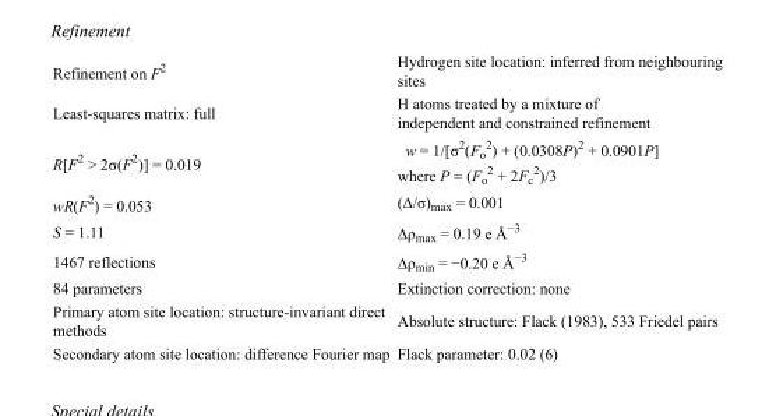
<table><tbody><tr><td>Refinement on F<sup>2</sup></td><td>Hydrogen site location: inferred from neighbouring sites</td></tr><tr><td>Least-squares matrix: full</td><td>H atoms treated by a mixture of independent and constrained refinement</td></tr><tr><td>R[F<sup>2</sup> &gt; 2σ(F<sup>2</sup>)] = 0.019</td><td>w = 1/[σ<sup>2</sup>(F<sub>o</sub> <sup>2</sup>) + (0.0308P)<sup>2</sup> + 0.0901P] where P = (F<sub>o</sub> <sup>2</sup> + 2F<sub>c</sub> <sup>2</sup>)/3</td></tr><tr><td>wR(F<sup>2</sup>) = 0.053</td><td>(Δ/σ)<sub>max</sub> = 0.001</td></tr><tr><td>S = 1.11</td><td>Δρ<sub>max</sub> = 0.19 e Å<sup>−3</sup></td></tr><tr><td>1467 reflections</td><td>Δρ<sub>min</sub> = −0.20 e Å<sup>−3</sup></td></tr><tr><td>84 parameters</td><td>Extinction correction: none</td></tr><tr><td>Primary atom site location: structure-invariant direct methods</td><td>Absolute structure: Flack (1983), 533 Friedel pairs</td></tr><tr><td>Secondary atom site location: difference Fourier map</td><td>Flack parameter: 0.02 (6)</td></tr></tbody></table>